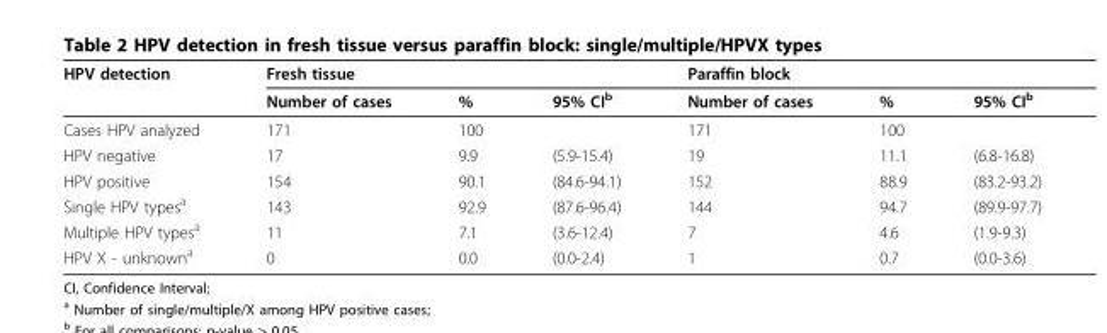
<table><thead><tr><td rowspan="2">HPV detection</td><td colspan="3">Fresh tissue</td><td colspan="3">Paraffin block</td></tr><tr><td>Number of cases</td><td>%</td><td>95% CI<sup>b</sup></td><td>Number of cases</td><td>%</td><td>95% CI<sup>b</sup></td></tr></thead><tbody><tr><td>Cases HPV analyzed</td><td>171</td><td>100</td><td></td><td>171</td><td>100</td><td></td></tr><tr><td>HPV negative</td><td>17</td><td>9.9</td><td>(5.9-15.4)</td><td>19</td><td>11.1</td><td>(6.8-16.8)</td></tr><tr><td>HPV positive</td><td>154</td><td>90.1</td><td>(84.6-94.1)</td><td>152</td><td>88.9</td><td>(83.2-93.2)</td></tr><tr><td>Single HPV types<sup>a</sup></td><td>143</td><td>92.9</td><td>(87.6-96.4)</td><td>144</td><td>94.7</td><td>(89.9-97.7)</td></tr><tr><td>Multiple HPV types<sup>a</sup></td><td>11</td><td>7.1</td><td>(3.6-12.4)</td><td>7</td><td>4.6</td><td>(1.9-9.3)</td></tr><tr><td>HPV X - unknown<sup>a</sup></td><td>0</td><td>0.0</td><td>(0.0-2.4)</td><td>1</td><td>0.7</td><td>(0.0-3.6)</td></tr></tbody></table>